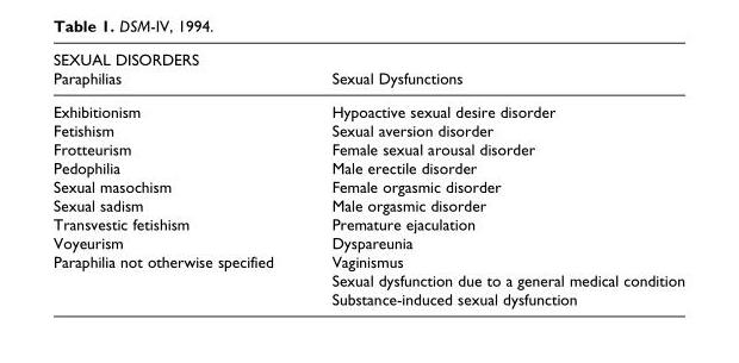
<table><thead><tr><td rowspan="2">SEXUAL DISORDERS Paraphilias</td><td rowspan="2">Sexual Dysfunctions</td></tr><tr></tr></thead><tbody><tr><td>Exhibitionism</td><td>Hypoactive sexual desire disorder</td></tr><tr><td>Fetishism</td><td>Sexual aversion disorder</td></tr><tr><td>Frotteurism</td><td>Female sexual arousal disorder</td></tr><tr><td>Pedophilia</td><td>Male erectile disorder</td></tr><tr><td>Sexual masochism</td><td>Female orgasmic disorder</td></tr><tr><td>Sexual sadism</td><td>Male orgasmic disorder</td></tr><tr><td>Transvestic fetishism</td><td>Premature ejaculation</td></tr><tr><td>Voyeurism</td><td>Dyspareunia</td></tr><tr><td rowspan="3">Paraphilia not otherwise specified</td><td>Vaginismus</td></tr><tr><td>Sexual dysfunction due to a general medical condition</td></tr><tr><td>Substance-induced sexual dysfunction</td></tr></tbody></table>